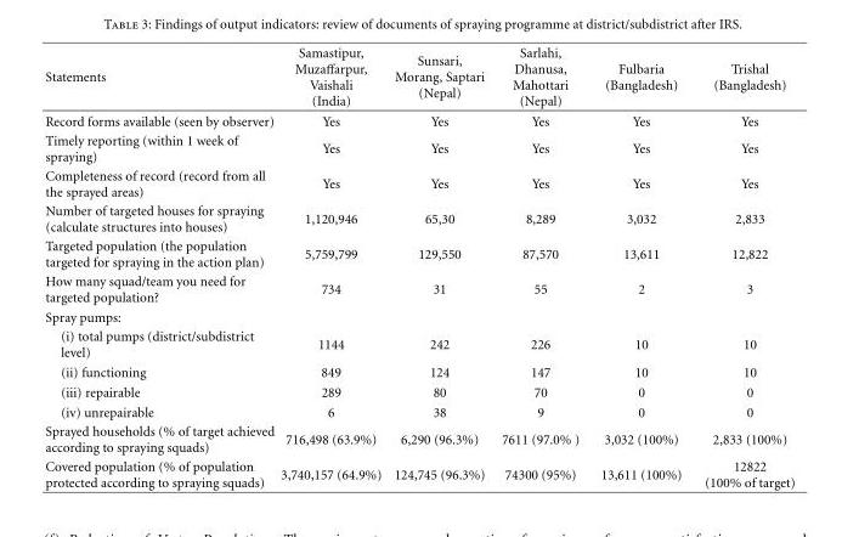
<table><thead><tr><td>Statements</td><td>Samastipur, Muzaffarpur, Vaishali (India)</td><td>Sunsari, Morang, Saptari (Nepal)</td><td>Sarlahi, Dhanusa, Mahottari (Nepal)</td><td>Fulbaria (Bangladesh)</td><td>Trishal (Bangladesh)</td></tr></thead><tbody><tr><td>Record forms available (seen by observer)</td><td>Yes</td><td>Yes</td><td>Yes</td><td>Yes</td><td>Yes</td></tr><tr><td>Timely reporting (within 1 week of spraying)</td><td>Yes</td><td>Yes</td><td>Yes</td><td>Yes</td><td>Yes</td></tr><tr><td>Completeness of record (record from all the sprayed areas)</td><td>Yes</td><td>Yes</td><td>Yes</td><td>Yes</td><td>Yes</td></tr><tr><td>Number of targeted houses for spraying (calculate structures into houses)</td><td>1,120,946</td><td>65,30</td><td>8,289</td><td>3,032</td><td>2,833</td></tr><tr><td>Targeted population (the population targeted for spraying in the action plan)</td><td>5,759,799</td><td>129,550</td><td>87,570</td><td>13,611</td><td>12,822</td></tr><tr><td>How many squad/team you need for targeted population?</td><td>734</td><td>31</td><td>55</td><td>2</td><td>3</td></tr><tr><td colspan="6">Spray pumps:</td></tr><tr><td>(i) total pumps (district/subdistrict level)</td><td>1144</td><td>242</td><td>226</td><td>10</td><td>10</td></tr><tr><td>(ii) functioning</td><td>849</td><td>124</td><td>147</td><td>10</td><td>10</td></tr><tr><td>(iii) repairable</td><td>289</td><td>80</td><td>70</td><td>0</td><td>0</td></tr><tr><td>(iv) unrepairable</td><td>6</td><td>38</td><td>9</td><td>0</td><td>0</td></tr><tr><td>Sprayed households (% of target achieved according to spraying squads)</td><td>716,498 (63.9%)</td><td>6,290 (96.3%)</td><td>7611 (97.0% )</td><td>3,032 (100%)</td><td>2,833 (100%)</td></tr><tr><td>Covered population (% of population protected according to spraying squads)</td><td>3,740,157 (64.9%)</td><td>124,745 (96.3%)</td><td>74300 (95%)</td><td>13,611 (100%)</td><td>12822 (100% of target)</td></tr></tbody></table>